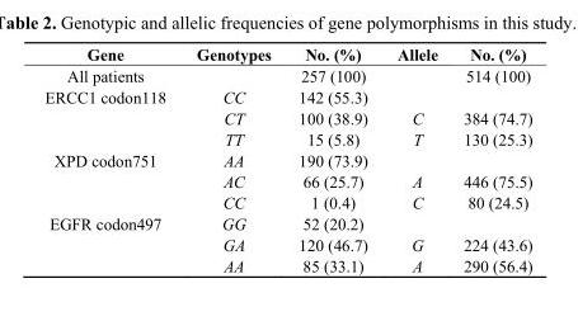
<table><thead><tr><td>Gene</td><td>Genotypes</td><td>No. (%)</td><td>Allele</td><td>No. (%)</td></tr></thead><tbody><tr><td>All patients</td><td></td><td>257 (100)</td><td></td><td>514 (100)</td></tr><tr><td rowspan="3">ERCC1 codon118</td><td>CC</td><td>142 (55.3)</td><td></td><td></td></tr><tr><td>CT</td><td>100 (38.9)</td><td>C</td><td>384 (74.7)</td></tr><tr><td>TT</td><td>15 (5.8)</td><td>T</td><td>130 (25.3)</td></tr><tr><td rowspan="3">XPD codon751</td><td>AA</td><td>190 (73.9)</td><td></td><td></td></tr><tr><td>AC</td><td>66 (25.7)</td><td>A</td><td>446 (75.5)</td></tr><tr><td>CC</td><td>1 (0.4)</td><td>C</td><td>80 (24.5)</td></tr><tr><td rowspan="3">EGFR codon497</td><td>GG</td><td>52 (20.2)</td><td></td><td></td></tr><tr><td>GA</td><td>120 (46.7)</td><td>G</td><td>224 (43.6)</td></tr><tr><td>AA</td><td>85 (33.1)</td><td>A</td><td>290 (56.4)</td></tr></tbody></table>